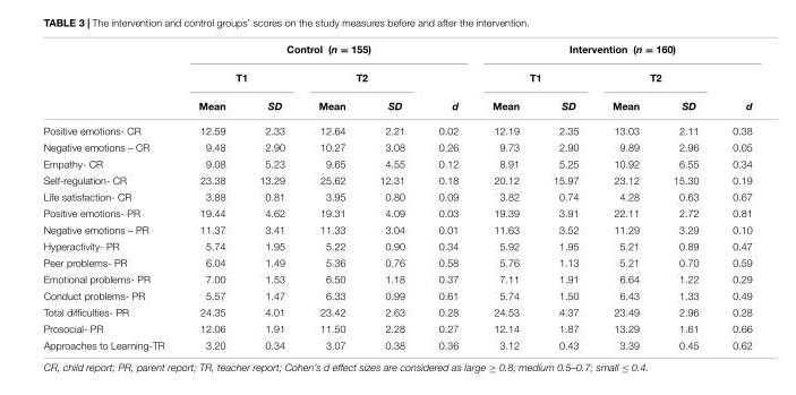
<table><thead><tr><td rowspan="3"></td><td colspan="5">Control (n = 155)</td><td colspan="5">Intervention (n = 160)</td></tr><tr><td colspan="2">T1</td><td colspan="2">T2</td><td rowspan="2">d</td><td colspan="2">T1</td><td colspan="2">T2</td><td rowspan="2">d</td></tr><tr><td>Mean</td><td>SD</td><td>Mean</td><td>SD</td><td>Mean</td><td>SD</td><td>Mean</td><td>SD</td></tr></thead><tbody><tr><td>Positive emotions- CR</td><td>12.59</td><td>2.33</td><td>12.64</td><td>2.21</td><td>0.02</td><td>12.19</td><td>2.35</td><td>13.03</td><td>2.11</td><td>0.38</td></tr><tr><td>Negative emotions – CR</td><td>9.48</td><td>2.90</td><td>10.27</td><td>3.08</td><td>0.26</td><td>9.73</td><td>2.90</td><td>9.89</td><td>2.96</td><td>0.05</td></tr><tr><td>Empathy- CR</td><td>9.08</td><td>5.23</td><td>9.65</td><td>4.55</td><td>0.12</td><td>8.91</td><td>5.25</td><td>10.92</td><td>6.55</td><td>0.34</td></tr><tr><td>Self-regulation- CR</td><td>23.38</td><td>13.29</td><td>25.62</td><td>12.31</td><td>0.18</td><td>20.12</td><td>15.97</td><td>23.12</td><td>15.30</td><td>0.19</td></tr><tr><td>Life satisfaction- CR</td><td>3.88</td><td>0.81</td><td>3.95</td><td>0.80</td><td>0.09</td><td>3.82</td><td>0.74</td><td>4.28</td><td>0.63</td><td>0.67</td></tr><tr><td>Positive emotions- PR</td><td>19.44</td><td>4.62</td><td>19.31</td><td>4.09</td><td>0.03</td><td>19.39</td><td>3.91</td><td>22.11</td><td>2.72</td><td>0.81</td></tr><tr><td>Negative emotions – PR</td><td>11.37</td><td>3.41</td><td>11.33</td><td>3.04</td><td>0.01</td><td>11.63</td><td>3.52</td><td>11.29</td><td>3.29</td><td>0.10</td></tr><tr><td>Hyperactivity- PR</td><td>5.74</td><td>1.95</td><td>5.22</td><td>0.90</td><td>0.34</td><td>5.92</td><td>1.95</td><td>5.21</td><td>0.89</td><td>0.47</td></tr><tr><td>Peer problems- PR</td><td>6.04</td><td>1.49</td><td>5.36</td><td>0.76</td><td>0.58</td><td>5.76</td><td>1.13</td><td>5.21</td><td>0.70</td><td>0.59</td></tr><tr><td>Emotional problems- PR</td><td>7.00</td><td>1.53</td><td>6.50</td><td>1.18</td><td>0.37</td><td>7.11</td><td>1.91</td><td>6.64</td><td>1.22</td><td>0.29</td></tr><tr><td>Conduct problems- PR</td><td>5.57</td><td>1.47</td><td>6.33</td><td>0.99</td><td>0.61</td><td>5.74</td><td>1.50</td><td>6.43</td><td>1.33</td><td>0.49</td></tr><tr><td>Total difficulties- PR</td><td>24.35</td><td>4.01</td><td>23.42</td><td>2.63</td><td>0.28</td><td>24.53</td><td>4.37</td><td>23.49</td><td>2.96</td><td>0.28</td></tr><tr><td>Prosocial- PR</td><td>12.06</td><td>1.91</td><td>11.50</td><td>2.28</td><td>0.27</td><td>12.14</td><td>1.87</td><td>13.29</td><td>1.61</td><td>0.66</td></tr><tr><td>Approaches to Learning-TR</td><td>3.20</td><td>0.34</td><td>3.07</td><td>0.38</td><td>0.36</td><td>3.12</td><td>0.43</td><td>3.39</td><td>0.45</td><td>0.62</td></tr></tbody></table>